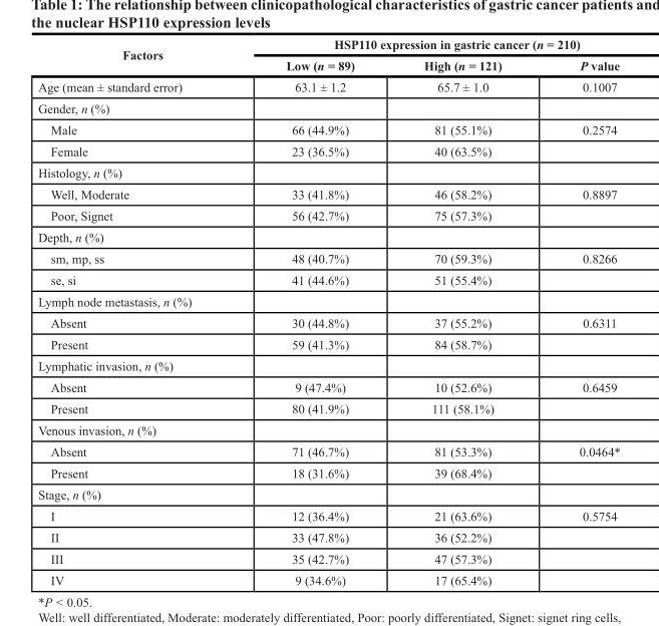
<table><thead><tr><td rowspan="2">Factors</td><td colspan="3">HSP110 expression in gastric cancer (n = 210)</td></tr><tr><td>Low (n = 89)</td><td>High (n = 121)</td><td>P value</td></tr></thead><tbody><tr><td>Age (mean ± standard error)</td><td>63.1 ± 1.2</td><td>65.7 ± 1.0</td><td>0.1007</td></tr><tr><td colspan="4">Gender, n (%)</td></tr><tr><td>Male</td><td>66 (44.9%)</td><td>81 (55.1%)</td><td>0.2574</td></tr><tr><td>Female</td><td>23 (36.5%)</td><td>40 (63.5%)</td><td></td></tr><tr><td colspan="4">Histology, n (%)</td></tr><tr><td>Well, Moderate</td><td>33 (41.8%)</td><td>46 (58.2%)</td><td>0.8897</td></tr><tr><td>Poor, Signet</td><td>56 (42.7%)</td><td>75 (57.3%)</td><td></td></tr><tr><td colspan="4">Depth, n (%)</td></tr><tr><td>sm, mp, ss</td><td>48 (40.7%)</td><td>70 (59.3%)</td><td>0.8266</td></tr><tr><td>se, si</td><td>41 (44.6%)</td><td>51 (55.4%)</td><td></td></tr><tr><td colspan="4">Lymph node metastasis, n (%)</td></tr><tr><td>Absent</td><td>30 (44.8%)</td><td>37 (55.2%)</td><td>0.6311</td></tr><tr><td>Present</td><td>59 (41.3%)</td><td>84 (58.7%)</td><td></td></tr><tr><td colspan="4">Lymphatic invasion, n (%)</td></tr><tr><td>Absent</td><td>9 (47.4%)</td><td>10 (52.6%)</td><td>0.6459</td></tr><tr><td>Present</td><td>80 (41.9%)</td><td>111 (58.1%)</td><td></td></tr><tr><td colspan="4">Venous invasion, n (%)</td></tr><tr><td>Absent</td><td>71 (46.7%)</td><td>81 (53.3%)</td><td>0.0464*</td></tr><tr><td>Present</td><td>18 (31.6%)</td><td>39 (68.4%)</td><td></td></tr><tr><td colspan="4">Stage, n (%)</td></tr><tr><td>I</td><td>12 (36.4%)</td><td>21 (63.6%)</td><td>0.5754</td></tr><tr><td>II</td><td>33 (47.8%)</td><td>36 (52.2%)</td><td></td></tr><tr><td>III</td><td>35 (42.7%)</td><td>47 (57.3%)</td><td></td></tr><tr><td>IV</td><td>9 (34.6%)</td><td>17 (65.4%)</td><td></td></tr></tbody></table>